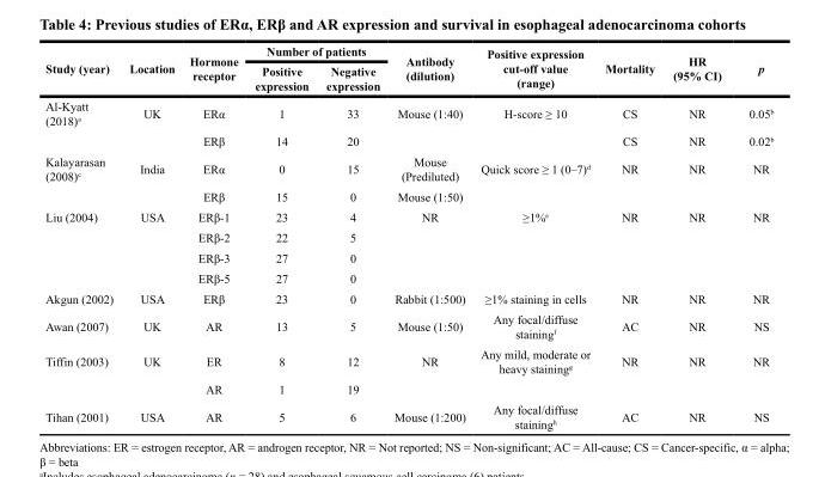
<table><thead><tr><td rowspan="2">Study (year)</td><td rowspan="2">Location</td><td rowspan="2">Hormone receptor</td><td colspan="2">Number of patients</td><td rowspan="2">Antibody (dilution)</td><td rowspan="2">Positive expression cut-off value (range)</td><td rowspan="2">Mortality</td><td rowspan="2">HR (95% CI)</td><td rowspan="2">p</td></tr><tr><td>Positive expression</td><td>Negative expression</td></tr></thead><tbody><tr><td rowspan="2">Al-Kyatt (2018)<sup>a</sup></td><td>UK</td><td>ERα</td><td>1</td><td>33</td><td>Mouse (1:40)</td><td>H-score ≥ 10</td><td>CS</td><td>NR</td><td>0.05<sup>b</sup></td></tr><tr><td></td><td>ERβ</td><td>14</td><td>20</td><td></td><td></td><td>CS</td><td>NR</td><td>0.02<sup>b</sup></td></tr><tr><td rowspan="2">Kalayarasan (2008)<sup>c</sup></td><td>India</td><td>ERα</td><td>0</td><td>15</td><td>Mouse (Prediluted)</td><td>Quick score ≥ 1 (0–7)<sup>d</sup></td><td>NR</td><td>NR</td><td>NR</td></tr><tr><td></td><td>ERβ</td><td>15</td><td>0</td><td>Mouse (1:50)</td><td></td><td></td><td></td><td></td></tr><tr><td rowspan="4">Liu (2004)</td><td>USA</td><td>ERβ-1</td><td>23</td><td>4</td><td>NR</td><td>≥1%<sup>e</sup></td><td>NR</td><td>NR</td><td>NR</td></tr><tr><td></td><td>ERβ-2</td><td>22</td><td>5</td><td></td><td></td><td></td><td></td><td></td></tr><tr><td></td><td>ERβ-3</td><td>27</td><td>0</td><td></td><td></td><td></td><td></td><td></td></tr><tr><td></td><td>ERβ-5</td><td>27</td><td>0</td><td></td><td></td><td></td><td></td><td></td></tr><tr><td>Akgun (2002)</td><td>USA</td><td>ERβ</td><td>23</td><td>0</td><td>Rabbit (1:500)</td><td>≥1% staining in cells</td><td>NR</td><td>NR</td><td>NR</td></tr><tr><td>Awan (2007)</td><td>UK</td><td>AR</td><td>13</td><td>5</td><td>Mouse (1:50)</td><td>Any focal/diffuse staining<sup>f</sup></td><td>AC</td><td>NR</td><td>NS</td></tr><tr><td rowspan="2">Tiffin (2003)</td><td>UK</td><td>ER</td><td>8</td><td>12</td><td>NR</td><td>Any mild, moderate or heavy staining<sup>g</sup></td><td>NR</td><td>NR</td><td>NR</td></tr><tr><td></td><td>AR</td><td>1</td><td>19</td><td></td><td></td><td></td><td></td><td></td></tr><tr><td>Tihan (2001)</td><td>USA</td><td>AR</td><td>5</td><td>6</td><td>Mouse (1:200)</td><td>Any focal/diffuse staining<sup>h</sup></td><td>AC</td><td>NR</td><td>NS</td></tr></tbody></table>